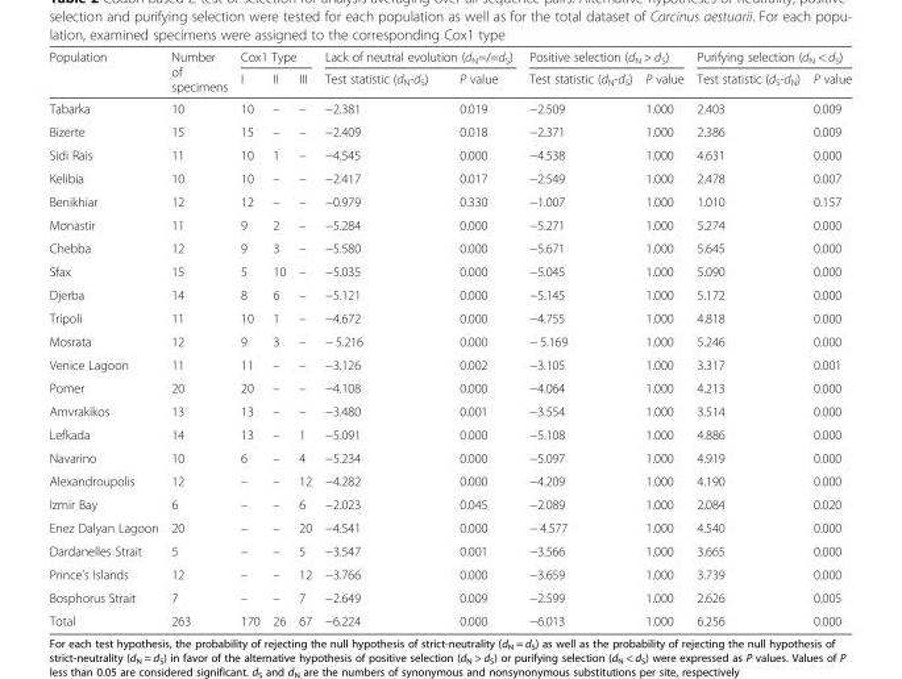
<table><thead><tr><td rowspan="2">Population</td><td rowspan="2">Number of specimens</td><td colspan="3">Cox1 Type</td><td colspan="2">Lack of neutral evolution (d<sub>N</sub>=/=d<sub>S</sub>)</td><td colspan="2">Positive selection (d<sub>N</sub> &gt; d<sub>S</sub>)</td><td colspan="2">Purifying selection (d<sub>N</sub> &lt; d<sub>S</sub>)</td></tr><tr><td>I</td><td>II</td><td>III</td><td>Test statistic (d<sub>N</sub>-d<sub>S</sub>)</td><td>P value</td><td>Test statistic (d<sub>N</sub>-d<sub>S</sub>)</td><td>P value</td><td>Test statistic (d<sub>S</sub>-d<sub>N</sub>)</td><td>P value</td></tr></thead><tbody><tr><td>Tabarka</td><td>10</td><td>10</td><td>–</td><td>–</td><td>−2.381</td><td>0.019</td><td>−2.509</td><td>1.000</td><td>2.403</td><td>0.009</td></tr><tr><td>Bizerte</td><td>15</td><td>15</td><td>–</td><td>–</td><td>−2.409</td><td>0.018</td><td>−2.371</td><td>1.000</td><td>2.386</td><td>0.009</td></tr><tr><td>Sidi Rais</td><td>11</td><td>10</td><td>1</td><td>–</td><td>−4.545</td><td>0.000</td><td>−4.538</td><td>1.000</td><td>4.631</td><td>0.000</td></tr><tr><td>Kelibia</td><td>10</td><td>10</td><td>–</td><td>–</td><td>−2.417</td><td>0.017</td><td>−2.549</td><td>1.000</td><td>2.478</td><td>0.007</td></tr><tr><td>Benikhiar</td><td>12</td><td>12</td><td>–</td><td>–</td><td>−0.979</td><td>0.330</td><td>−1.007</td><td>1.000</td><td>1.010</td><td>0.157</td></tr><tr><td>Monastir</td><td>11</td><td>9</td><td>2</td><td>–</td><td>−5.284</td><td>0.000</td><td>−5.271</td><td>1.000</td><td>5.274</td><td>0.000</td></tr><tr><td>Chebba</td><td>12</td><td>9</td><td>3</td><td>–</td><td>−5.580</td><td>0.000</td><td>−5.671</td><td>1.000</td><td>5.645</td><td>0.000</td></tr><tr><td>Sfax</td><td>15</td><td>5</td><td>10</td><td>–</td><td>−5.035</td><td>0.000</td><td>−5.045</td><td>1.000</td><td>5.090</td><td>0.000</td></tr><tr><td>Djerba</td><td>14</td><td>8</td><td>6</td><td>–</td><td>−5.121</td><td>0.000</td><td>−5.145</td><td>1.000</td><td>5.172</td><td>0.000</td></tr><tr><td>Tripoli</td><td>11</td><td>10</td><td>1</td><td>–</td><td>−4.672</td><td>0.000</td><td>−4.755</td><td>1.000</td><td>4.818</td><td>0.000</td></tr><tr><td>Mosrata</td><td>12</td><td>9</td><td>3</td><td>–</td><td>− 5.216</td><td>0.000</td><td>− 5.169</td><td>1.000</td><td>5.246</td><td>0.000</td></tr><tr><td>Venice Lagoon</td><td>11</td><td>11</td><td>–</td><td>–</td><td>−3.126</td><td>0.002</td><td>−3.105</td><td>1.000</td><td>3.317</td><td>0.001</td></tr><tr><td>Pomer</td><td>20</td><td>20</td><td>–</td><td>–</td><td>−4.108</td><td>0.000</td><td>−4.064</td><td>1.000</td><td>4.213</td><td>0.000</td></tr><tr><td>Amvrakikos</td><td>13</td><td>13</td><td>–</td><td>–</td><td>−3.480</td><td>0.001</td><td>−3.554</td><td>1.000</td><td>3.514</td><td>0.000</td></tr><tr><td>Lefkada</td><td>14</td><td>13</td><td>–</td><td>1</td><td>−5.091</td><td>0.000</td><td>−5.108</td><td>1.000</td><td>4.886</td><td>0.000</td></tr><tr><td>Navarino</td><td>10</td><td>6</td><td>–</td><td>4</td><td>−5.234</td><td>0.000</td><td>−5.097</td><td>1.000</td><td>4.919</td><td>0.000</td></tr><tr><td>Alexandroupolis</td><td>12</td><td>–</td><td>–</td><td>12</td><td>−4.282</td><td>0.000</td><td>−4.209</td><td>1.000</td><td>4.190</td><td>0.000</td></tr><tr><td>Izmir Bay</td><td>6</td><td>–</td><td>–</td><td>6</td><td>−2.023</td><td>0.045</td><td>−2.089</td><td>1.000</td><td>2.084</td><td>0.020</td></tr><tr><td>Enez Dalyan Lagoon</td><td>20</td><td>–</td><td>–</td><td>20</td><td>−4.541</td><td>0.000</td><td>− 4.577</td><td>1.000</td><td>4.540</td><td>0.000</td></tr><tr><td>Dardanelles Strait</td><td>5</td><td>–</td><td>–</td><td>5</td><td>−3.547</td><td>0.001</td><td>−3.566</td><td>1.000</td><td>3.665</td><td>0.000</td></tr><tr><td>Prince’s Islands</td><td>12</td><td>–</td><td>–</td><td>12</td><td>−3.766</td><td>0.000</td><td>−3.659</td><td>1.000</td><td>3.739</td><td>0.000</td></tr><tr><td>Bosphorus Strait</td><td>7</td><td>–</td><td>–</td><td>7</td><td>−2.649</td><td>0.009</td><td>−2.599</td><td>1.000</td><td>2.626</td><td>0.005</td></tr><tr><td>Total</td><td>263</td><td>170</td><td>26</td><td>67</td><td>−6.224</td><td>0.000</td><td>−6.013</td><td>1.000</td><td>6.256</td><td>0.000</td></tr></tbody></table>